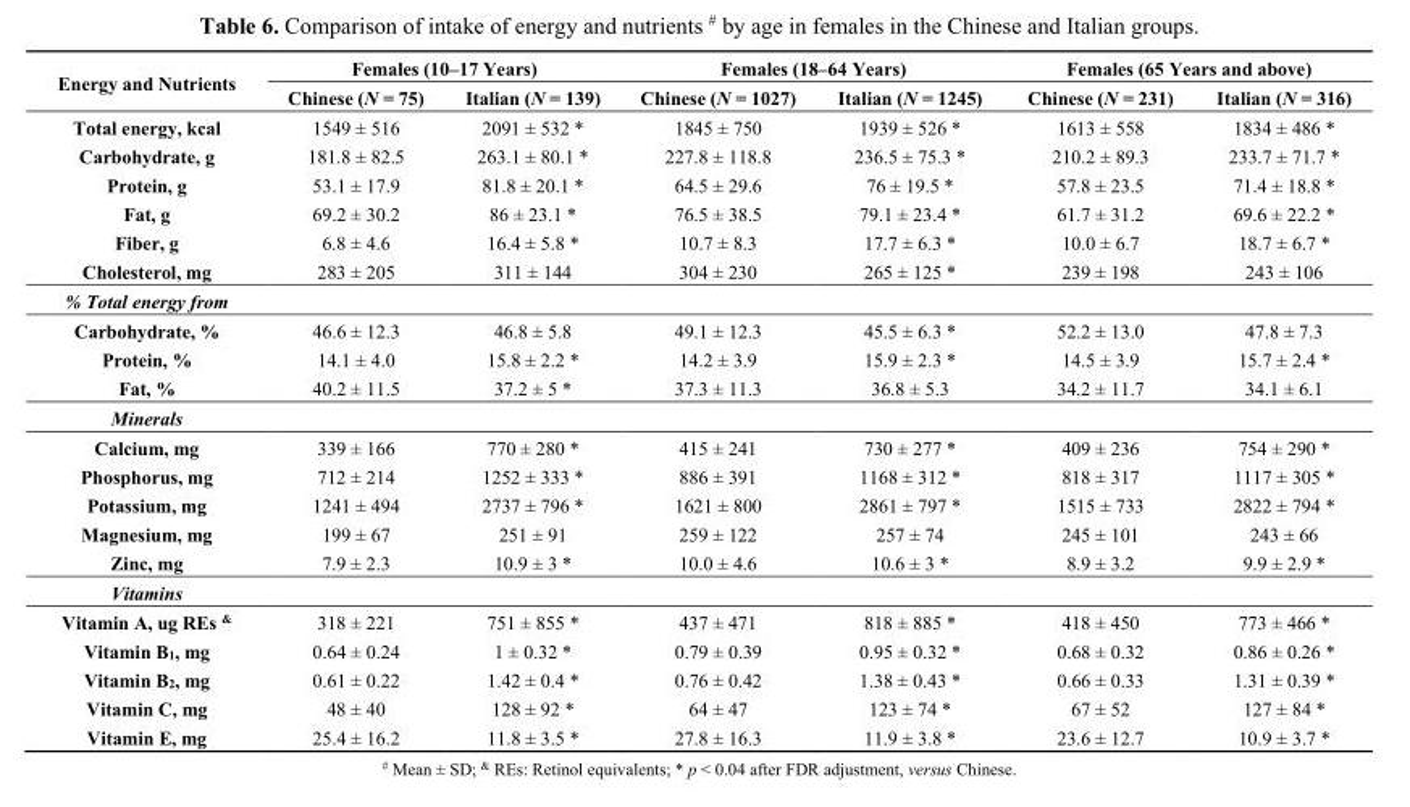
<table><thead><tr><td rowspan="2">Energy and Nutrients</td><td colspan="2">Females (10–17 Years)</td><td colspan="2">Females (18–64 Years)</td><td colspan="2">Females (65 Years and above)</td></tr><tr><td>Chinese (N = 75)</td><td>Italian (N = 139)</td><td>Chinese (N = 1027)</td><td>Italian (N = 1245)</td><td>Chinese (N = 231)</td><td>Italian (N = 316)</td></tr></thead><tbody><tr><td>Total energy, kcal</td><td>1549 ± 516</td><td>2091 ± 532 *</td><td>1845 ± 750</td><td>1939 ± 526 *</td><td>1613 ± 558</td><td>1834 ± 486 *</td></tr><tr><td>Carbohydrate, g</td><td>181.8 ± 82.5</td><td>263.1 ± 80.1 *</td><td>227.8 ± 118.8</td><td>236.5 ± 75.3 *</td><td>210.2 ± 89.3</td><td>233.7 ± 71.7 *</td></tr><tr><td>Protein, g</td><td>53.1 ± 17.9</td><td>81.8 ± 20.1 *</td><td>64.5 ± 29.6</td><td>76 ± 19.5 *</td><td>57.8 ± 23.5</td><td>71.4 ± 18.8 *</td></tr><tr><td>Fat, g</td><td>69.2 ± 30.2</td><td>86 ± 23.1 *</td><td>76.5 ± 38.5</td><td>79.1 ± 23.4 *</td><td>61.7 ± 31.2</td><td>69.6 ± 22.2 *</td></tr><tr><td>Fiber, g</td><td>6.8 ± 4.6</td><td>16.4 ± 5.8 *</td><td>10.7 ± 8.3</td><td>17.7 ± 6.3 *</td><td>10.0 ± 6.7</td><td>18.7 ± 6.7 *</td></tr><tr><td>Cholesterol, mg</td><td>283 ± 205</td><td>311 ± 144</td><td>304 ± 230</td><td>265 ± 125 *</td><td>239 ± 198</td><td>243 ± 106</td></tr><tr><td colspan="7">% Total energy from</td></tr><tr><td>Carbohydrate, %</td><td>46.6 ± 12.3</td><td>46.8 ± 5.8</td><td>49.1 ± 12.3</td><td>45.5 ± 6.3 *</td><td>52.2 ± 13.0</td><td>47.8 ± 7.3</td></tr><tr><td>Protein, %</td><td>14.1 ± 4.0</td><td>15.8 ± 2.2 *</td><td>14.2 ± 3.9</td><td>15.9 ± 2.3 *</td><td>14.5 ± 3.9</td><td>15.7 ± 2.4 *</td></tr><tr><td>Fat, %</td><td>40.2 ± 11.5</td><td>37.2 ± 5 *</td><td>37.3 ± 11.3</td><td>36.8 ± 5.3</td><td>34.2 ± 11.7</td><td>34.1 ± 6.1</td></tr><tr><td colspan="7">Minerals</td></tr><tr><td>Calcium, mg</td><td>339 ± 166</td><td>770 ± 280 *</td><td>415 ± 241</td><td>730 ± 277 *</td><td>409 ± 236</td><td>754 ± 290 *</td></tr><tr><td>Phosphorus, mg</td><td>712 ± 214</td><td>1252 ± 333 *</td><td>886 ± 391</td><td>1168 ± 312 *</td><td>818 ± 317</td><td>1117 ± 305 *</td></tr><tr><td>Potassium, mg</td><td>1241 ± 494</td><td>2737 ± 796 *</td><td>1621 ± 800</td><td>2861 ± 797 *</td><td>1515 ± 733</td><td>2822 ± 794 *</td></tr><tr><td>Magnesium, mg</td><td>199 ± 67</td><td>251 ± 91</td><td>259 ± 122</td><td>257 ± 74</td><td>245 ± 101</td><td>243 ± 66</td></tr><tr><td>Zinc, mg</td><td>7.9 ± 2.3</td><td>10.9 ± 3 *</td><td>10.0 ± 4.6</td><td>10.6 ± 3 *</td><td>8.9 ± 3.2</td><td>9.9 ± 2.9 *</td></tr><tr><td colspan="7">Vitamins</td></tr><tr><td>Vitamin A, ug REs <sup>&amp;</sup></td><td>318 ± 221</td><td>751 ± 855 *</td><td>437 ± 471</td><td>818 ± 885 *</td><td>418 ± 450</td><td>773 ± 466 *</td></tr><tr><td>Vitamin B<sub>1</sub>, mg</td><td>0.64 ± 0.24</td><td>1 ± 0.32 *</td><td>0.79 ± 0.39</td><td>0.95 ± 0.32 *</td><td>0.68 ± 0.32</td><td>0.86 ± 0.26 *</td></tr><tr><td>Vitamin B<sub>2</sub>, mg</td><td>0.61 ± 0.22</td><td>1.42 ± 0.4 *</td><td>0.76 ± 0.42</td><td>1.38 ± 0.43 *</td><td>0.66 ± 0.33</td><td>1.31 ± 0.39 *</td></tr><tr><td>Vitamin C, mg</td><td>48 ± 40</td><td>128 ± 92 *</td><td>64 ± 47</td><td>123 ± 74 *</td><td>67 ± 52</td><td>127 ± 84 *</td></tr><tr><td>Vitamin E, mg</td><td>25.4 ± 16.2</td><td>11.8 ± 3.5 *</td><td>27.8 ± 16.3</td><td>11.9 ± 3.8 *</td><td>23.6 ± 12.7</td><td>10.9 ± 3.7 *</td></tr></tbody></table>